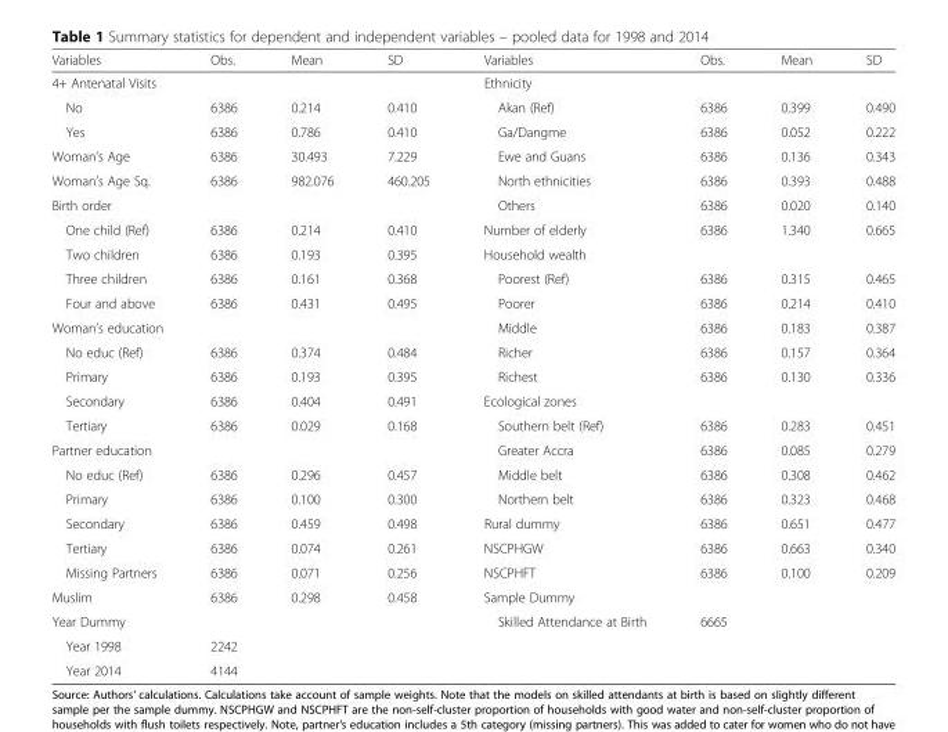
<table><thead><tr><td>Variables</td><td>Obs.</td><td>Mean</td><td>SD</td><td>Variables</td><td>Obs.</td><td>Mean</td><td>SD</td></tr></thead><tbody><tr><td colspan="4">4+ Antenatal Visits</td><td colspan="4">Ethnicity</td></tr><tr><td>No</td><td>6386</td><td>0.214</td><td>0.410</td><td>Akan (Ref)</td><td>6386</td><td>0.399</td><td>0.490</td></tr><tr><td>Yes</td><td>6386</td><td>0.786</td><td>0.410</td><td>Ga/Dangme</td><td>6386</td><td>0.052</td><td>0.222</td></tr><tr><td>Woman’s Age</td><td>6386</td><td>30.493</td><td>7.229</td><td>Ewe and Guans</td><td>6386</td><td>0.136</td><td>0.343</td></tr><tr><td>Woman’s Age Sq.</td><td>6386</td><td>982.076</td><td>460.205</td><td>North ethnicities</td><td>6386</td><td>0.393</td><td>0.488</td></tr><tr><td colspan="4">Birth order</td><td>Others</td><td>6386</td><td>0.020</td><td>0.140</td></tr><tr><td>One child (Ref)</td><td>6386</td><td>0.214</td><td>0.410</td><td>Number of elderly</td><td>6386</td><td>1.340</td><td>0.665</td></tr><tr><td>Two children</td><td>6386</td><td>0.193</td><td>0.395</td><td colspan="4">Household wealth</td></tr><tr><td>Three children</td><td>6386</td><td>0.161</td><td>0.368</td><td>Poorest (Ref)</td><td>6386</td><td>0.315</td><td>0.465</td></tr><tr><td>Four and above</td><td>6386</td><td>0.431</td><td>0.495</td><td>Poorer</td><td>6386</td><td>0.214</td><td>0.410</td></tr><tr><td colspan="4">Woman’s education</td><td>Middle</td><td>6386</td><td>0.183</td><td>0.387</td></tr><tr><td>No educ (Ref)</td><td>6386</td><td>0.374</td><td>0.484</td><td>Richer</td><td>6386</td><td>0.157</td><td>0.364</td></tr><tr><td>Primary</td><td>6386</td><td>0.193</td><td>0.395</td><td>Richest</td><td>6386</td><td>0.130</td><td>0.336</td></tr><tr><td>Secondary</td><td>6386</td><td>0.404</td><td>0.491</td><td colspan="4">Ecological zones</td></tr><tr><td>Tertiary</td><td>6386</td><td>0.029</td><td>0.168</td><td>Southern belt (Ref)</td><td>6386</td><td>0.283</td><td>0.451</td></tr><tr><td colspan="4">Partner education</td><td>Greater Accra</td><td>6386</td><td>0.085</td><td>0.279</td></tr><tr><td>No educ (Ref)</td><td>6386</td><td>0.296</td><td>0.457</td><td>Middle belt</td><td>6386</td><td>0.308</td><td>0.462</td></tr><tr><td>Primary</td><td>6386</td><td>0.100</td><td>0.300</td><td>Northern belt</td><td>6386</td><td>0.323</td><td>0.468</td></tr><tr><td>Secondary</td><td>6386</td><td>0.459</td><td>0.498</td><td>Rural dummy</td><td>6386</td><td>0.651</td><td>0.477</td></tr><tr><td>Tertiary</td><td>6386</td><td>0.074</td><td>0.261</td><td>NSCPHGW</td><td>6386</td><td>0.663</td><td>0.340</td></tr><tr><td>Missing Partners</td><td>6386</td><td>0.071</td><td>0.256</td><td>NSCPHFT</td><td>6386</td><td>0.100</td><td>0.209</td></tr><tr><td>Muslim</td><td>6386</td><td>0.298</td><td>0.458</td><td colspan="4">Sample Dummy</td></tr><tr><td colspan="4">Year Dummy</td><td>Skilled Attendance at Birth</td><td>6665</td><td></td><td></td></tr><tr><td>Year 1998</td><td>2242</td><td></td><td></td><td colspan="4"></td></tr><tr><td>Year 2014</td><td>4144</td><td></td><td></td><td colspan="4"></td></tr></tbody></table>